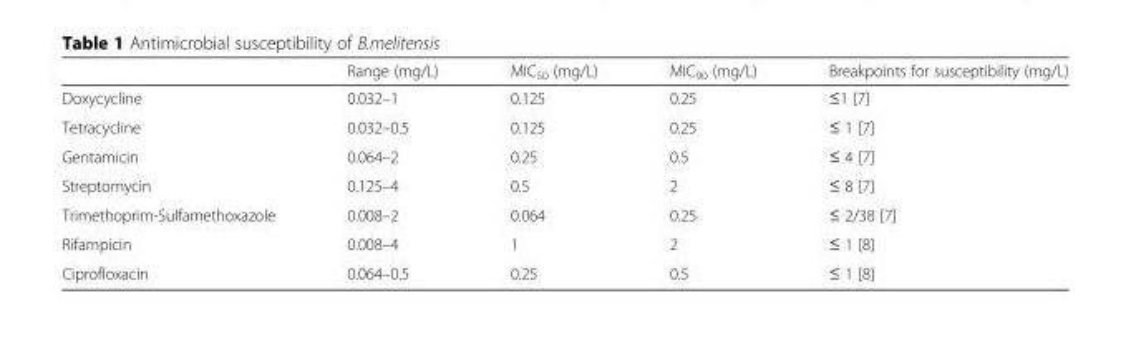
<table><thead><tr><td></td><td>Range (mg/L)</td><td>MIC<sub>50</sub> (mg/L)</td><td>MIC<sub>90</sub> (mg/L)</td><td>Breakpoints for susceptibility (mg/L)</td></tr></thead><tbody><tr><td>Doxycycline</td><td>0.032–1</td><td>0.125</td><td>0.25</td><td>≤1 [7]</td></tr><tr><td>Tetracycline</td><td>0.032–0.5</td><td>0.125</td><td>0.25</td><td>≤ 1 [7]</td></tr><tr><td>Gentamicin</td><td>0.064–2</td><td>0.25</td><td>0.5</td><td>≤ 4 [7]</td></tr><tr><td>Streptomycin</td><td>0.125–4</td><td>0.5</td><td>2</td><td>≤ 8 [7]</td></tr><tr><td>Trimethoprim-Sulfamethoxazole</td><td>0.008–2</td><td>0.064</td><td>0.25</td><td>≤ 2/38 [7]</td></tr><tr><td>Rifampicin</td><td>0.008–4</td><td>1</td><td>2</td><td>≤ 1 [8]</td></tr><tr><td>Ciprofloxacin</td><td>0.064–0.5</td><td>0.25</td><td>0.5</td><td>≤ 1 [8]</td></tr></tbody></table>